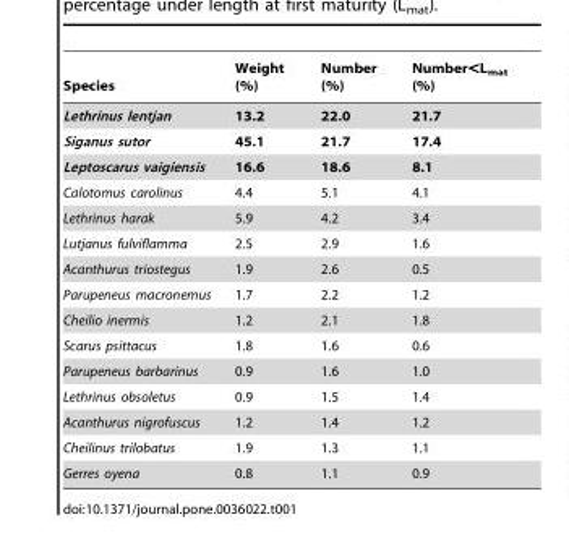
<table><thead><tr><td>Species</td><td>Weight (%)</td><td>Number (%)</td><td>Number&lt;L<sub>mat</sub> (%)</td></tr></thead><tbody><tr><td>Lethrinus lentjan</td><td>13.2</td><td>22.0</td><td>21.7</td></tr><tr><td>Siganus sutor</td><td>45.1</td><td>21.7</td><td>17.4</td></tr><tr><td>Leptoscarus vaigiensis</td><td>16.6</td><td>18.6</td><td>8.1</td></tr><tr><td>Calotomus carolinus</td><td>4.4</td><td>5.1</td><td>4.1</td></tr><tr><td>Lethrinus harak</td><td>5.9</td><td>4.2</td><td>3.4</td></tr><tr><td>Lutjanus fulviflamma</td><td>2.5</td><td>2.9</td><td>1.6</td></tr><tr><td>Acanthurus triostegus</td><td>1.9</td><td>2.6</td><td>0.5</td></tr><tr><td>Parupeneus macronemus</td><td>1.7</td><td>2.2</td><td>1.2</td></tr><tr><td>Cheilio inermis</td><td>1.2</td><td>2.1</td><td>1.8</td></tr><tr><td>Scarus psittacus</td><td>1.8</td><td>1.6</td><td>0.6</td></tr><tr><td>Parupeneus barbarinus</td><td>0.9</td><td>1.6</td><td>1.0</td></tr><tr><td>Lethrinus obsoletus</td><td>0.9</td><td>1.5</td><td>1.4</td></tr><tr><td>Acanthurus nigrofuscus</td><td>1.2</td><td>1.4</td><td>1.2</td></tr><tr><td>Cheilinus trilobatus</td><td>1.9</td><td>1.3</td><td>1.1</td></tr><tr><td>Gerres oyena</td><td>0.8</td><td>1.1</td><td>0.9</td></tr></tbody></table>